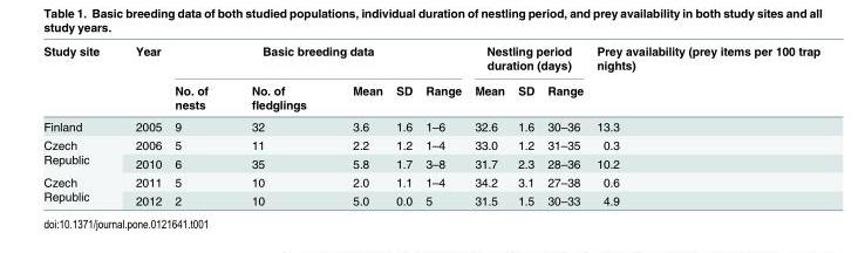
<table><thead><tr><td rowspan="2">Study site</td><td rowspan="2">Year</td><td colspan="5">Basic breeding data</td><td colspan="3">Nestling period duration (days)</td><td rowspan="2">Prey availability (prey items per 100 trap nights)</td></tr><tr><td>No. of nests</td><td>No. of fledglings</td><td>Mean</td><td>SD</td><td>Range</td><td>Mean</td><td>SD</td><td>Range</td></tr></thead><tbody><tr><td>Finland</td><td>2005</td><td>9</td><td>32</td><td>3.6</td><td>1.6</td><td>1–6</td><td>32.6</td><td>1.6</td><td>30–36</td><td>13.3</td></tr><tr><td rowspan="2">Czech Republic</td><td>2006</td><td>5</td><td>11</td><td>2.2</td><td>1.2</td><td>1–4</td><td>33.0</td><td>1.2</td><td>31–35</td><td>0.3</td></tr><tr><td>2010</td><td>6</td><td>35</td><td>5.8</td><td>1.7</td><td>3–8</td><td>31.7</td><td>2.3</td><td>28–36</td><td>10.2</td></tr><tr><td rowspan="2">Czech Republic</td><td>2011</td><td>5</td><td>10</td><td>2.0</td><td>1.1</td><td>1–4</td><td>34.2</td><td>3.1</td><td>27–38</td><td>0.6</td></tr><tr><td>2012</td><td>2</td><td>10</td><td>5.0</td><td>0.0</td><td>5</td><td>31.5</td><td>1.5</td><td>30–33</td><td>4.9</td></tr></tbody></table>